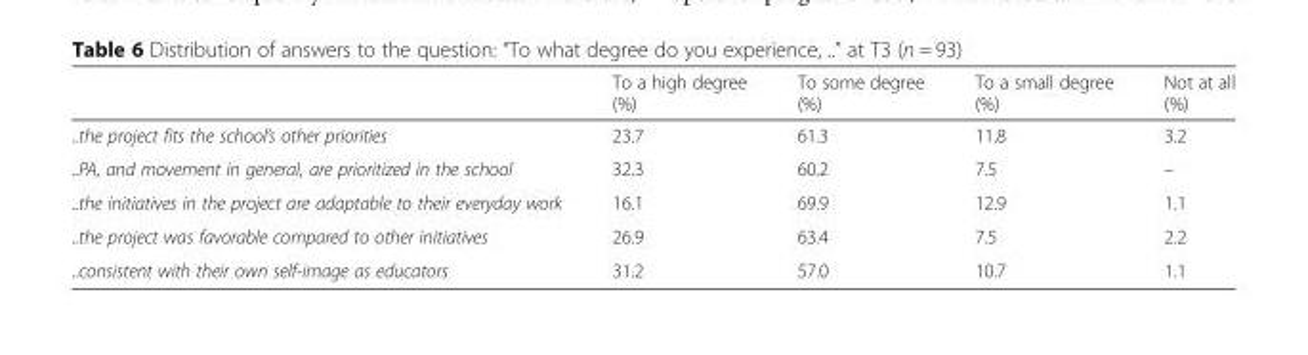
<table><thead><tr><td></td><td>To a high degree (%)</td><td>To some degree (%)</td><td>To a small degree (%)</td><td>Not at all (%)</td></tr></thead><tbody><tr><td>..the project fits the school’s other priorities</td><td>23.7</td><td>61.3</td><td>11.8</td><td>3.2</td></tr><tr><td>..PA, and movement in general, are prioritized in the school</td><td>32.3</td><td>60.2</td><td>7.5</td><td>–</td></tr><tr><td>..the initiatives in the project are adaptable to their everyday work</td><td>16.1</td><td>69.9</td><td>12.9</td><td>1.1</td></tr><tr><td>..the project was favorable compared to other initiatives</td><td>26.9</td><td>63.4</td><td>7.5</td><td>2.2</td></tr><tr><td>..consistent with their own self-image as educators</td><td>31.2</td><td>57.0</td><td>10.7</td><td>1.1</td></tr></tbody></table>